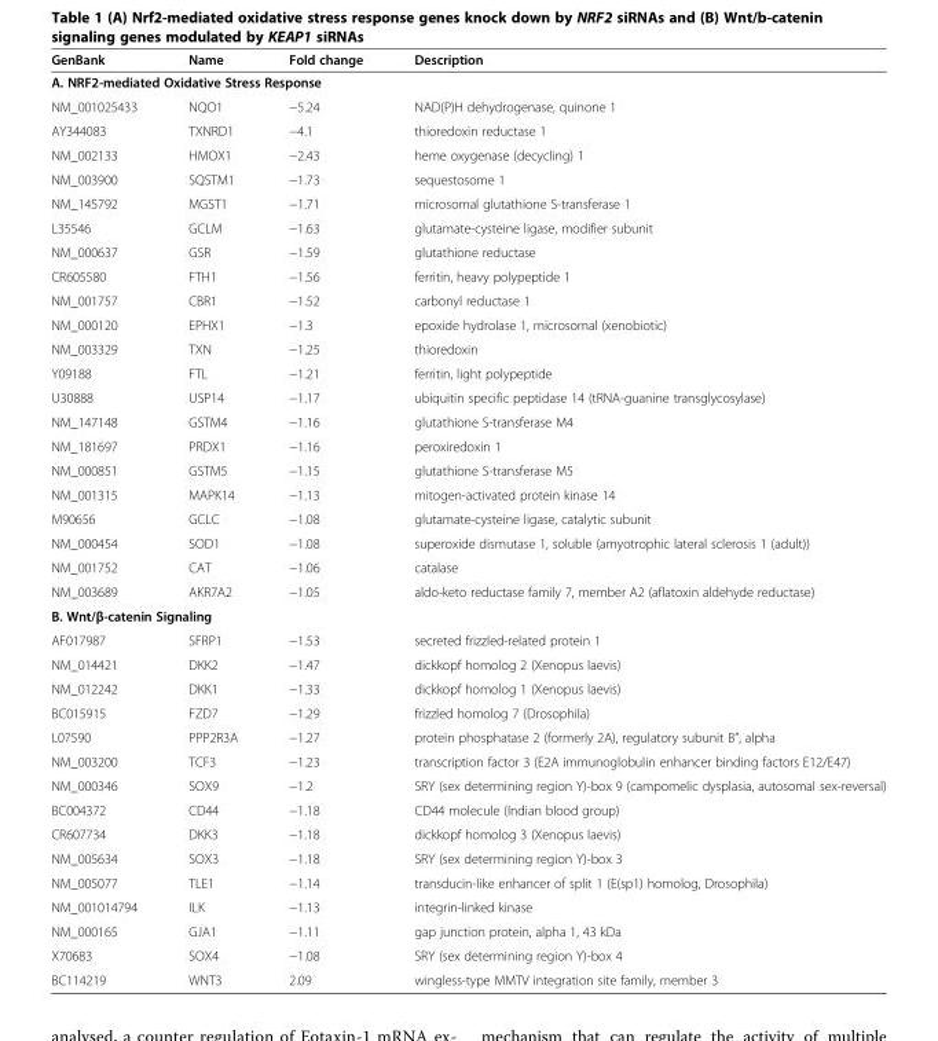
<table><thead><tr><td>GenBank</td><td>Name</td><td>Fold change</td><td>Description</td></tr></thead><tbody><tr><td colspan="4">A. NRF2-mediated Oxidative Stress Response</td></tr><tr><td>NM_001025433</td><td>NQO1</td><td>−5.24</td><td>NAD(P)H dehydrogenase, quinone 1</td></tr><tr><td>AY344083</td><td>TXNRD1</td><td>−4.1</td><td>thioredoxin reductase 1</td></tr><tr><td>NM_002133</td><td>HMOX1</td><td>−2.43</td><td>heme oxygenase (decycling) 1</td></tr><tr><td>NM_003900</td><td>SQSTM1</td><td>−1.73</td><td>sequestosome 1</td></tr><tr><td>NM_145792</td><td>MGST1</td><td>−1.71</td><td>microsomal glutathione S-transferase 1</td></tr><tr><td>L35546</td><td>GCLM</td><td>−1.63</td><td>glutamate-cysteine ligase, modifier subunit</td></tr><tr><td>NM_000637</td><td>GSR</td><td>−1.59</td><td>glutathione reductase</td></tr><tr><td>CR605580</td><td>FTH1</td><td>−1.56</td><td>ferritin, heavy polypeptide 1</td></tr><tr><td>NM_001757</td><td>CBR1</td><td>−1.52</td><td>carbonyl reductase 1</td></tr><tr><td>NM_000120</td><td>EPHX1</td><td>−1.3</td><td>epoxide hydrolase 1, microsomal (xenobiotic)</td></tr><tr><td>NM_003329</td><td>TXN</td><td>−1.25</td><td>thioredoxin</td></tr><tr><td>Y09188</td><td>FTL</td><td>−1.21</td><td>ferritin, light polypeptide</td></tr><tr><td>U30888</td><td>USP14</td><td>−1.17</td><td>ubiquitin specific peptidase 14 (tRNA-guanine transglycosylase)</td></tr><tr><td>NM_147148</td><td>GSTM4</td><td>−1.16</td><td>glutathione S-transferase M4</td></tr><tr><td>NM_181697</td><td>PRDX1</td><td>−1.16</td><td>peroxiredoxin 1</td></tr><tr><td>NM_000851</td><td>GSTM5</td><td>−1.15</td><td>glutathione S-transferase M5</td></tr><tr><td>NM_001315</td><td>MAPK14</td><td>−1.13</td><td>mitogen-activated protein kinase 14</td></tr><tr><td>M90656</td><td>GCLC</td><td>−1.08</td><td>glutamate-cysteine ligase, catalytic subunit</td></tr><tr><td>NM_000454</td><td>SOD1</td><td>−1.08</td><td>superoxide dismutase 1, soluble (amyotrophic lateral sclerosis 1 (adult))</td></tr><tr><td>NM_001752</td><td>CAT</td><td>−1.06</td><td>catalase</td></tr><tr><td>NM_003689</td><td>AKR7A2</td><td>−1.05</td><td>aldo-keto reductase family 7, member A2 (aflatoxin aldehyde reductase)</td></tr><tr><td colspan="4">B. Wnt/β-catenin Signaling</td></tr><tr><td>AF017987</td><td>SFRP1</td><td>−1.53</td><td>secreted frizzled-related protein 1</td></tr><tr><td>NM_014421</td><td>DKK2</td><td>−1.47</td><td>dickkopf homolog 2 (Xenopus laevis)</td></tr><tr><td>NM_012242</td><td>DKK1</td><td>−1.33</td><td>dickkopf homolog 1 (Xenopus laevis)</td></tr><tr><td>BC015915</td><td>FZD7</td><td>−1.29</td><td>frizzled homolog 7 (Drosophila)</td></tr><tr><td>L07590</td><td>PPP2R3A</td><td>−1.27</td><td>protein phosphatase 2 (formerly 2A), regulatory subunit B”, alpha</td></tr><tr><td>NM_003200</td><td>TCF3</td><td>−1.23</td><td>transcription factor 3 (E2A immunoglobulin enhancer binding factors E12/E47)</td></tr><tr><td>NM_000346</td><td>SOX9</td><td>−1.2</td><td>SRY (sex determining region Y)-box 9 (campomelic dysplasia, autosomal sex-reversal)</td></tr><tr><td>BC004372</td><td>CD44</td><td>−1.18</td><td>CD44 molecule (Indian blood group)</td></tr><tr><td>CR607734</td><td>DKK3</td><td>−1.18</td><td>dickkopf homolog 3 (Xenopus laevis)</td></tr><tr><td>NM_005634</td><td>SOX3</td><td>−1.18</td><td>SRY (sex determining region Y)-box 3</td></tr><tr><td>NM_005077</td><td>TLE1</td><td>−1.14</td><td>transducin-like enhancer of split 1 (E(sp1) homolog, Drosophila)</td></tr><tr><td>NM_001014794</td><td>ILK</td><td>−1.13</td><td>integrin-linked kinase</td></tr><tr><td>NM_000165</td><td>GJA1</td><td>−1.11</td><td>gap junction protein, alpha 1, 43 kDa</td></tr><tr><td>X70683</td><td>SOX4</td><td>−1.08</td><td>SRY (sex determining region Y)-box 4</td></tr><tr><td>BC114219</td><td>WNT3</td><td>2.09</td><td>wingless-type MMTV integration site family, member 3</td></tr></tbody></table>